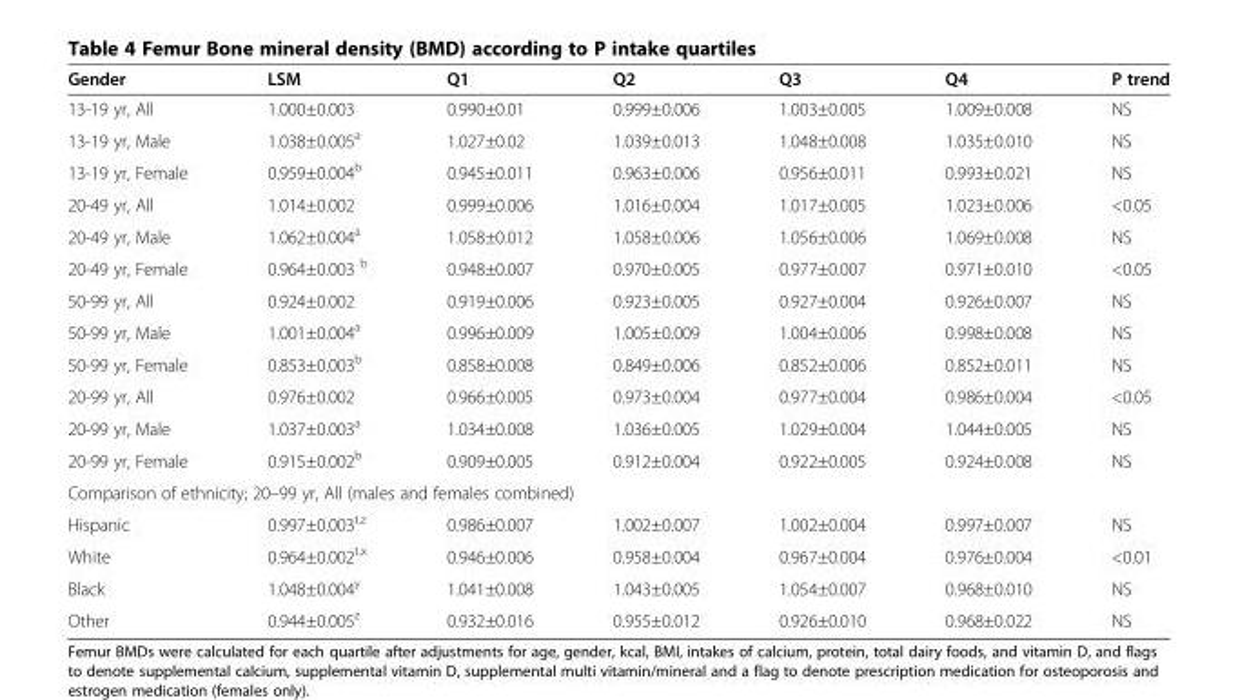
<table><thead><tr><td>Gender</td><td>LSM</td><td>Q1</td><td>Q2</td><td>Q3</td><td>Q4</td><td>P trend</td></tr></thead><tbody><tr><td>13-19 yr, All</td><td>1.000±0.003</td><td>0.990±0.01</td><td>0.999±0.006</td><td>1.003±0.005</td><td>1.009±0.008</td><td>NS</td></tr><tr><td>13-19 yr, Male</td><td>1.038±0.005<sup>a</sup></td><td>1.027±0.02</td><td>1.039±0.013</td><td>1.048±0.008</td><td>1.035±0.010</td><td>NS</td></tr><tr><td>13-19 yr, Female</td><td>0.959±0.004<sup>b</sup></td><td>0.945±0.011</td><td>0.963±0.006</td><td>0.956±0.011</td><td>0.993±0.021</td><td>NS</td></tr><tr><td>20-49 yr, All</td><td>1.014±0.002</td><td>0.999±0.006</td><td>1.016±0.004</td><td>1.017±0.005</td><td>1.023±0.006</td><td>&lt;0.05</td></tr><tr><td>20-49 yr, Male</td><td>1.062±0.004<sup>a</sup></td><td>1.058±0.012</td><td>1.058±0.006</td><td>1.056±0.006</td><td>1.069±0.008</td><td>NS</td></tr><tr><td>20-49 yr, Female</td><td>0.964±0.003 <sup>b</sup></td><td>0.948±0.007</td><td>0.970±0.005</td><td>0.977±0.007</td><td>0.971±0.010</td><td>&lt;0.05</td></tr><tr><td>50-99 yr, All</td><td>0.924±0.002</td><td>0.919±0.006</td><td>0.923±0.005</td><td>0.927±0.004</td><td>0.926±0.007</td><td>NS</td></tr><tr><td>50-99 yr, Male</td><td>1.001±0.004<sup>a</sup></td><td>0.996±0.009</td><td>1.005±0.009</td><td>1.004±0.006</td><td>0.998±0.008</td><td>NS</td></tr><tr><td>50-99 yr, Female</td><td>0.853±0.003<sup>b</sup></td><td>0.858±0.008</td><td>0.849±0.006</td><td>0.852±0.006</td><td>0.852±0.011</td><td>NS</td></tr><tr><td>20-99 yr, All</td><td>0.976±0.002</td><td>0.966±0.005</td><td>0.973±0.004</td><td>0.977±0.004</td><td>0.986±0.004</td><td>&lt;0.05</td></tr><tr><td>20-99 yr, Male</td><td>1.037±0.003<sup>a</sup></td><td>1.034±0.008</td><td>1.036±0.005</td><td>1.029±0.004</td><td>1.044±0.005</td><td>NS</td></tr><tr><td>20-99 yr, Female</td><td>0.915±0.002<sup>b</sup></td><td>0.909±0.005</td><td>0.912±0.004</td><td>0.922±0.005</td><td>0.924±0.008</td><td>NS</td></tr><tr><td colspan="7">Comparison of ethnicity; 20–99 yr, All (males and females combined)</td></tr><tr><td>Hispanic</td><td>0.997±0.003<sup>t,z</sup></td><td>0.986±0.007</td><td>1.002±0.007</td><td>1.002±0.004</td><td>0.997±0.007</td><td>NS</td></tr><tr><td>White</td><td>0.964±0.002<sup>t,x</sup></td><td>0.946±0.006</td><td>0.958±0.004</td><td>0.967±0.004</td><td>0.976±0.004</td><td>&lt;0.01</td></tr><tr><td>Black</td><td>1.048±0.004<sup>y</sup></td><td>1.041±0.008</td><td>1.043±0.005</td><td>1.054±0.007</td><td>0.968±0.010</td><td>NS</td></tr><tr><td>Other</td><td>0.944±0.005<sup>z</sup></td><td>0.932±0.016</td><td>0.955±0.012</td><td>0.926±0.010</td><td>0.968±0.022</td><td>NS</td></tr></tbody></table>